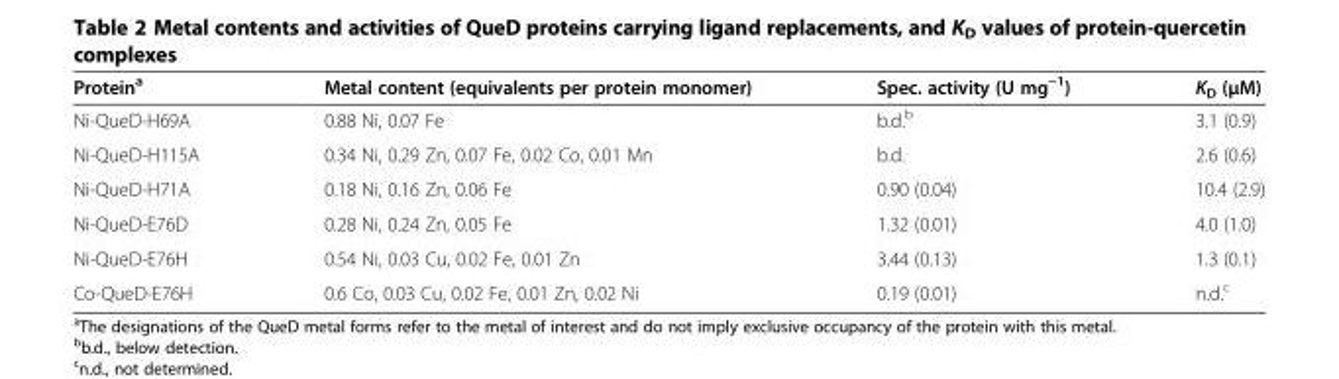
<table><thead><tr><td>Protein<sup>a</sup></td><td>Metal content (equivalents per protein monomer)</td><td>Spec. activity (U mg<sup>−1</sup>)</td><td>K<sub>D</sub> (μM)</td></tr></thead><tbody><tr><td>Ni-QueD-H69A</td><td>0.88 Ni, 0.07 Fe</td><td>b.d.<sup>b</sup></td><td>3.1 (0.9)</td></tr><tr><td>Ni-QueD-H115A</td><td>0.34 Ni, 0.29 Zn, 0.07 Fe, 0.02 Co, 0.01 Mn</td><td>b.d.</td><td>2.6 (0.6)</td></tr><tr><td>Ni-QueD-H71A</td><td>0.18 Ni, 0.16 Zn, 0.06 Fe</td><td>0.90 (0.04)</td><td>10.4 (2.9)</td></tr><tr><td>Ni-QueD-E76D</td><td>0.28 Ni, 0.24 Zn, 0.05 Fe</td><td>1.32 (0.01)</td><td>4.0 (1.0)</td></tr><tr><td>Ni-QueD-E76H</td><td>0.54 Ni, 0.03 Cu, 0.02 Fe, 0.01 Zn</td><td>3.44 (0.13)</td><td>1.3 (0.1)</td></tr><tr><td>Co-QueD-E76H</td><td>0.6 Co, 0.03 Cu, 0.02 Fe, 0.01 Zn, 0.02 Ni</td><td>0.19 (0.01)</td><td>n.d.<sup>c</sup></td></tr></tbody></table>